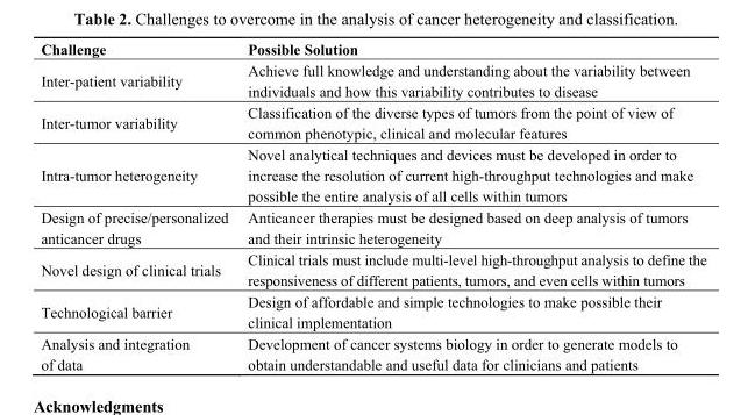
<table><thead><tr><td>Challenge</td><td>Possible Solution</td></tr></thead><tbody><tr><td>Inter-patient variability</td><td>Achieve full knowledge and understanding about the variability between individuals and how this variability contributes to disease</td></tr><tr><td>Inter-tumor variability</td><td>Classification of the diverse types of tumors from the point of view of common phenotypic, clinical and molecular features</td></tr><tr><td>Intra-tumor heterogeneity</td><td>Novel analytical techniques and devices must be developed in order to increase the resolution of current high-throughput technologies and make possible the entire analysis of all cells within tumors</td></tr><tr><td>Design of precise/personalized anticancer drugs</td><td>Anticancer therapies must be designed based on deep analysis of tumors and their intrinsic heterogeneity</td></tr><tr><td>Novel design of clinical trials</td><td>Clinical trials must include multi-level high-throughput analysis to define the responsiveness of different patients, tumors, and even cells within tumors</td></tr><tr><td>Technological barrier</td><td>Design of affordable and simple technologies to make possible their clinical implementation</td></tr><tr><td>Analysis and integration of data</td><td>Development of cancer systems biology in order to generate models to obtain understandable and useful data for clinicians and patients</td></tr></tbody></table>